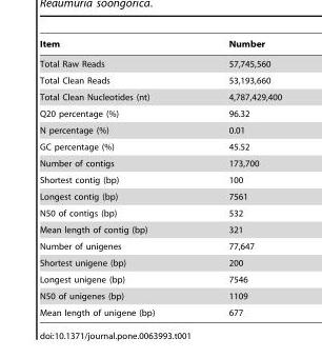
<table><thead><tr><td>Item</td><td>Number</td></tr></thead><tbody><tr><td>Total Raw Reads</td><td>57,745,560</td></tr><tr><td>Total Clean Reads</td><td>53,193,660</td></tr><tr><td>Total Clean Nucleotides (nt)</td><td>4,787,429,400</td></tr><tr><td>Q20 percentage (%)</td><td>96.32</td></tr><tr><td>N percentage (%)</td><td>0.01</td></tr><tr><td>GC percentage (%)</td><td>45.52</td></tr><tr><td>Number of contigs</td><td>173,700</td></tr><tr><td>Shortest contig (bp)</td><td>100</td></tr><tr><td>Longest contig (bp)</td><td>7561</td></tr><tr><td>N50 of contigs (bp)</td><td>532</td></tr><tr><td>Mean length of contig (bp)</td><td>321</td></tr><tr><td>Number of unigenes</td><td>77,647</td></tr><tr><td>Shortest unigene (bp)</td><td>200</td></tr><tr><td>Longest unigene (bp)</td><td>7546</td></tr><tr><td>N50 of unigenes (bp)</td><td>1109</td></tr><tr><td>Mean length of unigene (bp)</td><td>677</td></tr></tbody></table>